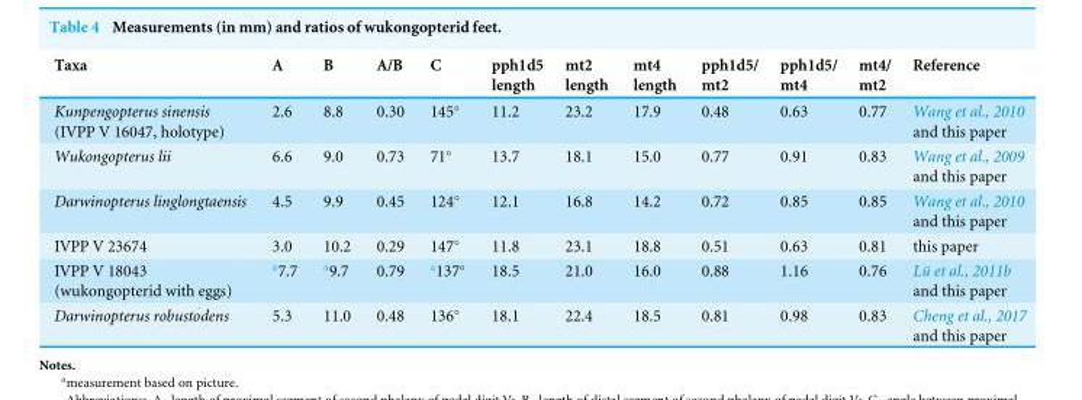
<table><thead><tr><td>Taxa</td><td>A</td><td>B</td><td>A/B</td><td>C</td><td>pph1d5 length</td><td>mt2 length</td><td>mt4 length</td><td>pph1d5/ mt2</td><td>pph1d5/ mt4</td><td>mt4/ mt2</td><td>Reference</td></tr></thead><tbody><tr><td>Kunpengopterus sinensis (IVPP V 16047, holotype)</td><td>2.6</td><td>8.8</td><td>0.30</td><td>145◦</td><td>11.2</td><td>23.2</td><td>17.9</td><td>0.48</td><td>0.63</td><td>0.77</td><td>Wang et al., 2010 and this paper</td></tr><tr><td>Wukongopterus lii</td><td>6.6</td><td>9.0</td><td>0.73</td><td>71◦</td><td>13.7</td><td>18.1</td><td>15.0</td><td>0.77</td><td>0.91</td><td>0.83</td><td>Wang et al., 2009 and this paper</td></tr><tr><td>Darwinopterus linglongtaensis</td><td>4.5</td><td>9.9</td><td>0.45</td><td>124◦</td><td>12.1</td><td>16.8</td><td>14.2</td><td>0.72</td><td>0.85</td><td>0.85</td><td>Wang et al., 2010 and this paper</td></tr><tr><td>IVPP V 23674</td><td>3.0</td><td>10.2</td><td>0.29</td><td>147◦</td><td>11.8</td><td>23.1</td><td>18.8</td><td>0.51</td><td>0.63</td><td>0.81</td><td>this paper</td></tr><tr><td>IVPP V 18043 (wukongopterid with eggs)</td><td><sup>a</sup>7.7</td><td><sup>a</sup>9.7</td><td>0.79</td><td>a137◦</td><td>18.5</td><td>21.0</td><td>16.0</td><td>0.88</td><td>1.16</td><td>0.76</td><td>Lü et al., 2011b and this paper</td></tr><tr><td>Darwinopterus robustodens</td><td>5.3</td><td>11.0</td><td>0.48</td><td>136◦</td><td>18.1</td><td>22.4</td><td>18.5</td><td>0.81</td><td>0.98</td><td>0.83</td><td>Cheng et al., 2017 and this paper</td></tr></tbody></table>